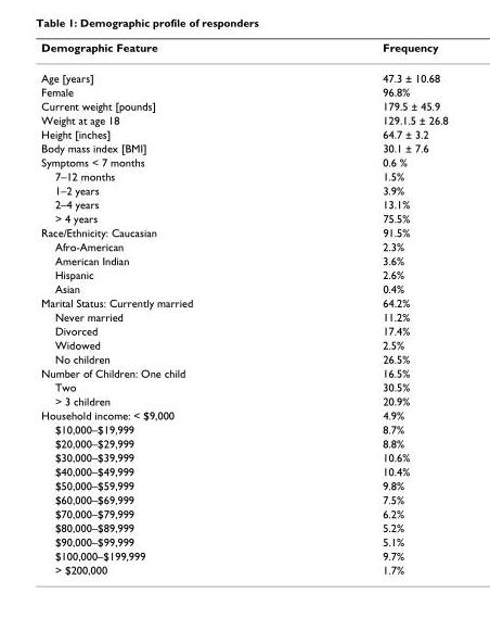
<table><thead><tr><td>Demographic Feature</td><td>Frequency</td></tr></thead><tbody><tr><td>Age [years]</td><td>47.3 ± 10.68</td></tr><tr><td>Female</td><td>96.8%</td></tr><tr><td>Current weight [pounds]</td><td>179.5 ± 45.9</td></tr><tr><td>Weight at age 18</td><td>129.1.5 ± 26.8</td></tr><tr><td>Height [inches]</td><td>64.7 ± 3.2</td></tr><tr><td>Body mass index [BMI]</td><td>30.1 ± 7.6</td></tr><tr><td>Symptoms &lt; 7 months</td><td>0.6 %</td></tr><tr><td>7–12 months</td><td>1.5%</td></tr><tr><td>1–2 years</td><td>3.9%</td></tr><tr><td>2–4 years</td><td>13.1%</td></tr><tr><td>&gt; 4 years</td><td>75.5%</td></tr><tr><td>Race/Ethnicity: Caucasian</td><td>91.5%</td></tr><tr><td>Afro-American</td><td>2.3%</td></tr><tr><td>American Indian</td><td>3.6%</td></tr><tr><td>Hispanic</td><td>2.6%</td></tr><tr><td>Asian</td><td>0.4%</td></tr><tr><td>Marital Status: Currently married</td><td>64.2%</td></tr><tr><td>Never married</td><td>11.2%</td></tr><tr><td>Divorced</td><td>17.4%</td></tr><tr><td>Widowed</td><td>2.5%</td></tr><tr><td>No children</td><td>26.5%</td></tr><tr><td>Number of Children: One child</td><td>16.5%</td></tr><tr><td>Two</td><td>30.5%</td></tr><tr><td>&gt; 3 children</td><td>20.9%</td></tr><tr><td>Household income: &lt; $9,000</td><td>4.9%</td></tr><tr><td>$10,000–$19,999</td><td>8.7%</td></tr><tr><td>$20,000–$29,999</td><td>8.8%</td></tr><tr><td>$30,000–$39,999</td><td>10.6%</td></tr><tr><td>$40,000–$49,999</td><td>10.4%</td></tr><tr><td>$50,000–$59,999</td><td>9.8%</td></tr><tr><td>$60,000–$69,999</td><td>7.5%</td></tr><tr><td>$70,000–$79,999</td><td>6.2%</td></tr><tr><td>$80,000–$89,999</td><td>5.2%</td></tr><tr><td>$90,000–$99,999</td><td>5.1%</td></tr><tr><td>$100,000–$199,999</td><td>9.7%</td></tr><tr><td>&gt; $200,000</td><td>1.7%</td></tr></tbody></table>